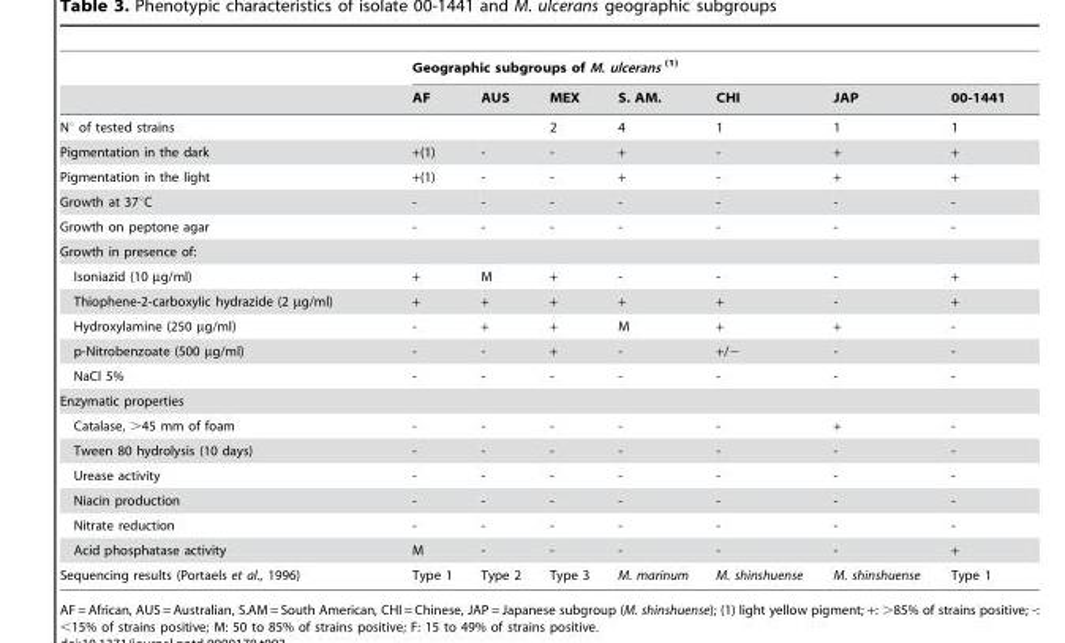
<table><thead><tr><td rowspan="2"></td><td colspan="7">Geographic subgroups of M. ulcerans <sup>(1)</sup></td></tr><tr><td>AF</td><td>AUS</td><td>MEX</td><td>S. AM.</td><td>CHI</td><td>JAP</td><td>00-1441</td></tr></thead><tbody><tr><td>N° of tested strains</td><td></td><td></td><td>2</td><td>4</td><td>1</td><td>1</td><td>1</td></tr><tr><td>Pigmentation in the dark</td><td>+(1)</td><td>-</td><td>-</td><td>+</td><td>-</td><td>+</td><td>+</td></tr><tr><td>Pigmentation in the light</td><td>+(1)</td><td>-</td><td>-</td><td>+</td><td>-</td><td>+</td><td>+</td></tr><tr><td>Growth at 37°C</td><td>-</td><td>-</td><td>-</td><td>-</td><td>-</td><td>-</td><td>-</td></tr><tr><td>Growth on peptone agar</td><td>-</td><td>-</td><td>-</td><td>-</td><td>-</td><td>-</td><td>-</td></tr><tr><td colspan="8">Growth in presence of:</td></tr><tr><td>Isoniazid (10 µg/ml)</td><td>+</td><td>M</td><td>+</td><td>-</td><td>-</td><td>-</td><td>+</td></tr><tr><td>Thiophene-2-carboxylic hydrazide (2 µg/ml)</td><td>+</td><td>+</td><td>+</td><td>+</td><td>+</td><td>-</td><td>+</td></tr><tr><td>Hydroxylamine (250 µg/ml)</td><td>-</td><td>+</td><td>+</td><td>M</td><td>+</td><td>+</td><td>-</td></tr><tr><td>p-Nitrobenzoate (500 µg/ml)</td><td>-</td><td>-</td><td>+</td><td>-</td><td>+/−</td><td>-</td><td>-</td></tr><tr><td>NaCl 5%</td><td>-</td><td>-</td><td>-</td><td>-</td><td>-</td><td>-</td><td>-</td></tr><tr><td colspan="8">Enzymatic properties</td></tr><tr><td>Catalase, &gt;45 mm of foam</td><td>-</td><td>-</td><td>-</td><td>-</td><td>-</td><td>+</td><td>-</td></tr><tr><td>Tween 80 hydrolysis (10 days)</td><td>-</td><td>-</td><td>-</td><td>-</td><td>-</td><td>-</td><td>-</td></tr><tr><td>Urease activity</td><td>-</td><td>-</td><td>-</td><td>-</td><td>-</td><td>-</td><td>-</td></tr><tr><td>Niacin production</td><td>-</td><td>-</td><td>-</td><td>-</td><td>-</td><td>-</td><td>-</td></tr><tr><td>Nitrate reduction</td><td>-</td><td>-</td><td>-</td><td>-</td><td>-</td><td>-</td><td>-</td></tr><tr><td>Acid phosphatase activity</td><td>M</td><td>-</td><td>-</td><td>-</td><td>-</td><td>-</td><td>+</td></tr><tr><td>Sequencing results (Portaels et al., 1996)</td><td>Type 1</td><td>Type 2</td><td>Type 3</td><td>M. marinum</td><td>M. shinshuense</td><td>M. shinshuense</td><td>Type 1</td></tr></tbody></table>